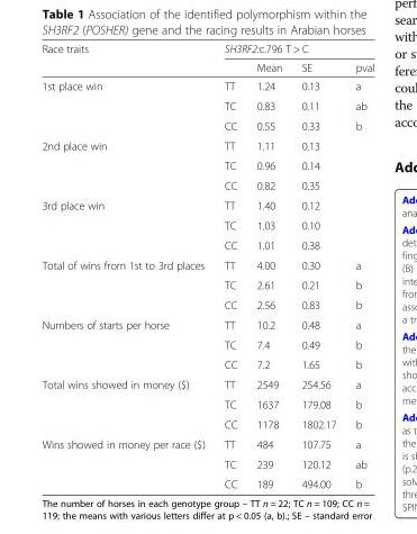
<table><thead><tr><td rowspan="2">Race traits</td><td colspan="4">SH3RF2:c.796 T &gt; C</td></tr><tr><td></td><td>Mean</td><td>SE</td><td>pval</td></tr></thead><tbody><tr><td rowspan="3">1st place win</td><td>TT</td><td>1.24</td><td>0.13</td><td>a</td></tr><tr><td>TC</td><td>0.83</td><td>0.11</td><td>ab</td></tr><tr><td>CC</td><td>0.55</td><td>0.33</td><td>b</td></tr><tr><td rowspan="3">2nd place win</td><td>TT</td><td>1.11</td><td>0.13</td><td></td></tr><tr><td>TC</td><td>0.96</td><td>0.14</td><td></td></tr><tr><td>CC</td><td>0.82</td><td>0.35</td><td></td></tr><tr><td rowspan="3">3rd place win</td><td>TT</td><td>1.40</td><td>0.12</td><td></td></tr><tr><td>TC</td><td>1.03</td><td>0.10</td><td></td></tr><tr><td>CC</td><td>1.01</td><td>0.38</td><td></td></tr><tr><td rowspan="3">Total of wins from 1st to 3rd places</td><td>TT</td><td>4.00</td><td>0.30</td><td>a</td></tr><tr><td>TC</td><td>2.61</td><td>0.21</td><td>b</td></tr><tr><td>CC</td><td>2.56</td><td>0.83</td><td>b</td></tr><tr><td rowspan="3">Numbers of starts per horse</td><td>TT</td><td>10.2</td><td>0.48</td><td>a</td></tr><tr><td>TC</td><td>7.4</td><td>0.49</td><td>b</td></tr><tr><td>CC</td><td>7.2</td><td>1.65</td><td>b</td></tr><tr><td rowspan="3">Total wins showed in money ($)</td><td>TT</td><td>2549</td><td>254.56</td><td>a</td></tr><tr><td>TC</td><td>1637</td><td>179.08</td><td>b</td></tr><tr><td>CC</td><td>1178</td><td>1802.17</td><td>b</td></tr><tr><td rowspan="3">Wins showed in money per race ($)</td><td>TT</td><td>484</td><td>107.75</td><td>a</td></tr><tr><td>TC</td><td>239</td><td>120.12</td><td>ab</td></tr><tr><td>CC</td><td>189</td><td>494.00</td><td>b</td></tr></tbody></table>